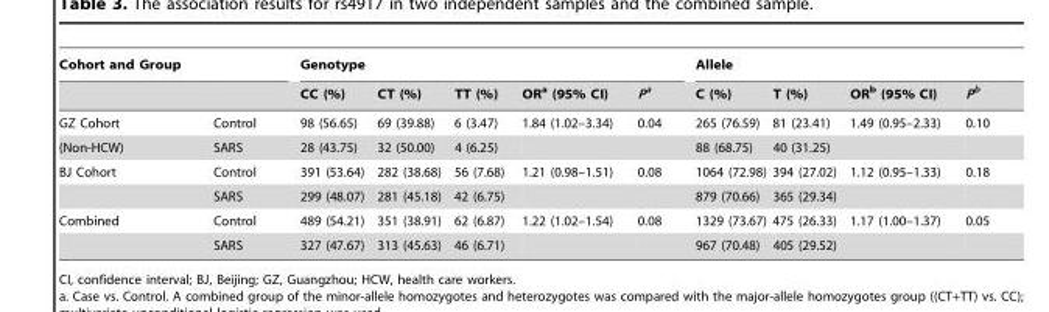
<table><thead><tr><td colspan="2">Cohort and Group</td><td colspan="5">Genotype</td><td colspan="4">Allele</td></tr><tr><td></td><td></td><td>CC (%)</td><td>CT (%)</td><td>TT (%)</td><td>OR<sup>a</sup> (95% CI)</td><td>P<sup>a</sup></td><td>C (%)</td><td>T (%)</td><td>OR<sup>b</sup> (95% CI)</td><td>P<sup>b</sup></td></tr></thead><tbody><tr><td>GZ Cohort</td><td>Control</td><td>98 (56.65)</td><td>69 (39.88)</td><td>6 (3.47)</td><td>1.84 (1.02–3.34)</td><td>0.04</td><td>265 (76.59)</td><td>81 (23.41)</td><td>1.49 (0.95–2.33)</td><td>0.10</td></tr><tr><td>(Non-HCW)</td><td>SARS</td><td>28 (43.75)</td><td>32 (50.00)</td><td>4 (6.25)</td><td></td><td></td><td>88 (68.75)</td><td>40 (31.25)</td><td></td><td></td></tr><tr><td rowspan="2">BJ Cohort</td><td>Control</td><td>391 (53.64)</td><td>282 (38.68)</td><td>56 (7.68)</td><td>1.21 (0.98–1.51)</td><td>0.08</td><td>1064 (72.98)</td><td>394 (27.02)</td><td>1.12 (0.95–1.33)</td><td>0.18</td></tr><tr><td>SARS</td><td>299 (48.07)</td><td>281 (45.18)</td><td>42 (6.75)</td><td></td><td></td><td>879 (70.66)</td><td>365 (29.34)</td><td></td><td></td></tr><tr><td rowspan="2">Combined</td><td>Control</td><td>489 (54.21)</td><td>351 (38.91)</td><td>62 (6.87)</td><td>1.22 (1.02–1.54)</td><td>0.08</td><td>1329 (73.67)</td><td>475 (26.33)</td><td>1.17 (1.00–1.37)</td><td>0.05</td></tr><tr><td>SARS</td><td>327 (47.67)</td><td>313 (45.63)</td><td>46 (6.71)</td><td></td><td></td><td>967 (70.48)</td><td>405 (29.52)</td><td></td><td></td></tr></tbody></table>